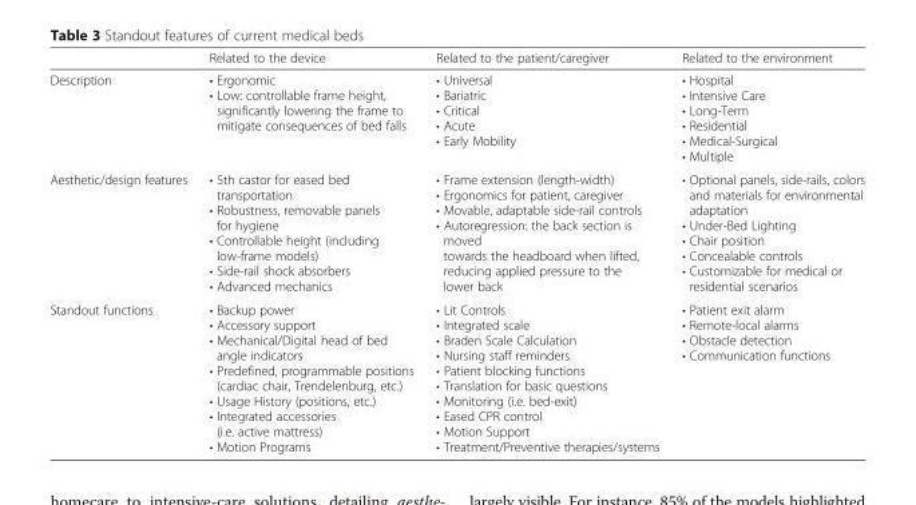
<table><thead><tr><td></td><td>Related to the device</td><td>Related to the patient/caregiver</td><td>Related to the environment</td></tr></thead><tbody><tr><td>Description</td><td>• Ergonomic • Low: controllable frame height, significantly lowering the frame to mitigate consequences of bed falls</td><td>• Universal • Bariatric • Critical • Acute • Early Mobility</td><td>• Hospital • Intensive Care • Long-Term • Residential • Medical-Surgical • Multiple</td></tr><tr><td>Aesthetic/design features</td><td>• 5th castor for eased bed transportation • Robustness, removable panels for hygiene • Controllable height (including low-frame models) • Side-rail shock absorbers • Advanced mechanics</td><td>• Frame extension (length-width) • Ergonomics for patient, caregiver • Movable, adaptable side-rail controls • Autoregression: the back section is moved towards the headboard when lifted, reducing applied pressure to the lower back</td><td>• Optional panels, side-rails, colors and materials for environmental adaptation • Under-Bed Lighting • Chair position • Concealable controls • Customizable for medical or residential scenarios</td></tr><tr><td>Standout functions</td><td>• Backup power • Accessory support • Mechanical/Digital head of bed angle indicators • Predefined, programmable positions (cardiac chair, Trendelenburg, etc.) • Usage History (positions, etc.) • Integrated accessories (i.e. active mattress) • Motion Programs</td><td>• Lit Controls • Integrated scale • Braden Scale Calculation • Nursing staff reminders • Patient blocking functions • Translation for basic questions • Monitoring (i.e. bed-exit) • Eased CPR control • Motion Support • Treatment/Preventive therapies/systems</td><td>• Patient exit alarm • Remote-local alarms • Obstacle detection • Communication functions</td></tr></tbody></table>